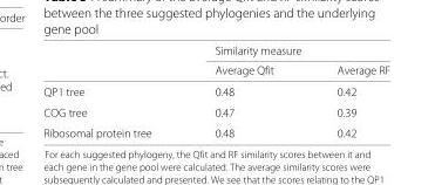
<table><thead><tr><td rowspan="2"></td><td colspan="2">Similarity measure</td></tr><tr><td>Average Qfit</td><td>Average RF</td></tr></thead><tbody><tr><td>QP1 tree</td><td>0.48</td><td>0.42</td></tr><tr><td>COG tree</td><td>0.47</td><td>0.39</td></tr><tr><td>Ribosomal protein tree</td><td>0.48</td><td>0.42</td></tr></tbody></table>